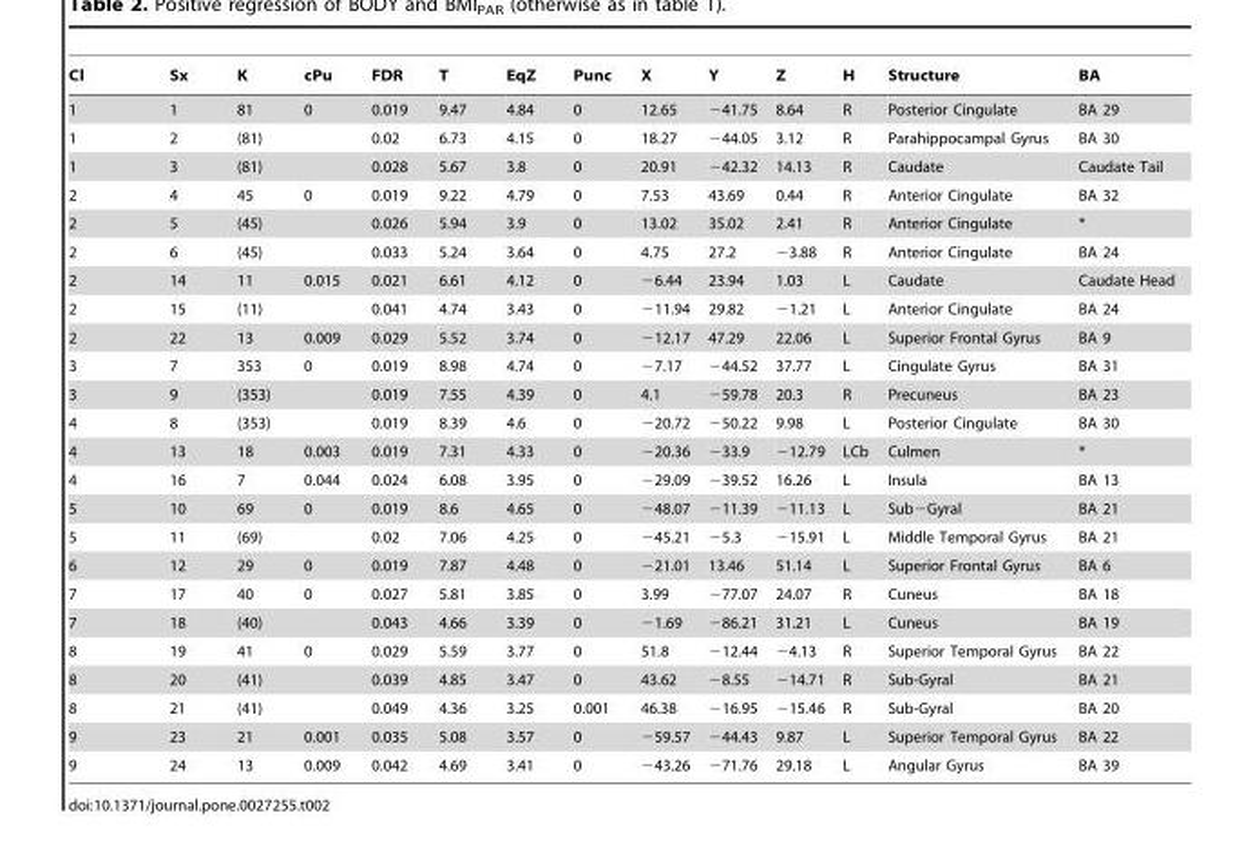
<table><thead><tr><td>Cl</td><td>Sx</td><td>K</td><td>cPu</td><td>FDR</td><td>T</td><td>EqZ</td><td>Punc</td><td>X</td><td>Y</td><td>Z</td><td>H</td><td>Structure</td><td>BA</td></tr></thead><tbody><tr><td>1</td><td>1</td><td>81</td><td>0</td><td>0.019</td><td>9.47</td><td>4.84</td><td>0</td><td>12.65</td><td>−41.75</td><td>8.64</td><td>R</td><td>Posterior Cingulate</td><td>BA 29</td></tr><tr><td>1</td><td>2</td><td>(81)</td><td></td><td>0.02</td><td>6.73</td><td>4.15</td><td>0</td><td>18.27</td><td>−44.05</td><td>3.12</td><td>R</td><td>Parahippocampal Gyrus</td><td>BA 30</td></tr><tr><td>1</td><td>3</td><td>(81)</td><td></td><td>0.028</td><td>5.67</td><td>3.8</td><td>0</td><td>20.91</td><td>−42.32</td><td>14.13</td><td>R</td><td>Caudate</td><td>Caudate Tail</td></tr><tr><td>2</td><td>4</td><td>45</td><td>0</td><td>0.019</td><td>9.22</td><td>4.79</td><td>0</td><td>7.53</td><td>43.69</td><td>0.44</td><td>R</td><td>Anterior Cingulate</td><td>BA 32</td></tr><tr><td>2</td><td>5</td><td>(45)</td><td></td><td>0.026</td><td>5.94</td><td>3.9</td><td>0</td><td>13.02</td><td>35.02</td><td>2.41</td><td>R</td><td>Anterior Cingulate</td><td>*</td></tr><tr><td>2</td><td>6</td><td>(45)</td><td></td><td>0.033</td><td>5.24</td><td>3.64</td><td>0</td><td>4.75</td><td>27.2</td><td>−3.88</td><td>R</td><td>Anterior Cingulate</td><td>BA 24</td></tr><tr><td>2</td><td>14</td><td>11</td><td>0.015</td><td>0.021</td><td>6.61</td><td>4.12</td><td>0</td><td>−6.44</td><td>23.94</td><td>1.03</td><td>L</td><td>Caudate</td><td>Caudate Head</td></tr><tr><td>2</td><td>15</td><td>(11)</td><td></td><td>0.041</td><td>4.74</td><td>3.43</td><td>0</td><td>−11.94</td><td>29.82</td><td>−1.21</td><td>L</td><td>Anterior Cingulate</td><td>BA 24</td></tr><tr><td>2</td><td>22</td><td>13</td><td>0.009</td><td>0.029</td><td>5.52</td><td>3.74</td><td>0</td><td>−12.17</td><td>47.29</td><td>22.06</td><td>L</td><td>Superior Frontal Gyrus</td><td>BA 9</td></tr><tr><td>3</td><td>7</td><td>353</td><td>0</td><td>0.019</td><td>8.98</td><td>4.74</td><td>0</td><td>−7.17</td><td>−44.52</td><td>37.77</td><td>L</td><td>Cingulate Gyrus</td><td>BA 31</td></tr><tr><td>3</td><td>9</td><td>(353)</td><td></td><td>0.019</td><td>7.55</td><td>4.39</td><td>0</td><td>4.1</td><td>−59.78</td><td>20.3</td><td>R</td><td>Precuneus</td><td>BA 23</td></tr><tr><td>4</td><td>8</td><td>(353)</td><td></td><td>0.019</td><td>8.39</td><td>4.6</td><td>0</td><td>−20.72</td><td>−50.22</td><td>9.98</td><td>L</td><td>Posterior Cingulate</td><td>BA 30</td></tr><tr><td>4</td><td>13</td><td>18</td><td>0.003</td><td>0.019</td><td>7.31</td><td>4.33</td><td>0</td><td>−20.36</td><td>−33.9</td><td>−12.79</td><td>LCb</td><td>Culmen</td><td>*</td></tr><tr><td>4</td><td>16</td><td>7</td><td>0.044</td><td>0.024</td><td>6.08</td><td>3.95</td><td>0</td><td>−29.09</td><td>−39.52</td><td>16.26</td><td>L</td><td>Insula</td><td>BA 13</td></tr><tr><td>5</td><td>10</td><td>69</td><td>0</td><td>0.019</td><td>8.6</td><td>4.65</td><td>0</td><td>−48.07</td><td>−11.39</td><td>−11.13</td><td>L</td><td>Sub−Gyral</td><td>BA 21</td></tr><tr><td>5</td><td>11</td><td>(69)</td><td></td><td>0.02</td><td>7.06</td><td>4.25</td><td>0</td><td>−45.21</td><td>−5.3</td><td>−15.91</td><td>L</td><td>Middle Temporal Gyrus</td><td>BA 21</td></tr><tr><td>6</td><td>12</td><td>29</td><td>0</td><td>0.019</td><td>7.87</td><td>4.48</td><td>0</td><td>−21.01</td><td>13.46</td><td>51.14</td><td>L</td><td>Superior Frontal Gyrus</td><td>BA 6</td></tr><tr><td>7</td><td>17</td><td>40</td><td>0</td><td>0.027</td><td>5.81</td><td>3.85</td><td>0</td><td>3.99</td><td>−77.07</td><td>24.07</td><td>R</td><td>Cuneus</td><td>BA 18</td></tr><tr><td>7</td><td>18</td><td>(40)</td><td></td><td>0.043</td><td>4.66</td><td>3.39</td><td>0</td><td>−1.69</td><td>−86.21</td><td>31.21</td><td>L</td><td>Cuneus</td><td>BA 19</td></tr><tr><td>8</td><td>19</td><td>41</td><td>0</td><td>0.029</td><td>5.59</td><td>3.77</td><td>0</td><td>51.8</td><td>−12.44</td><td>−4.13</td><td>R</td><td>Superior Temporal Gyrus</td><td>BA 22</td></tr><tr><td>8</td><td>20</td><td>(41)</td><td></td><td>0.039</td><td>4.85</td><td>3.47</td><td>0</td><td>43.62</td><td>−8.55</td><td>−14.71</td><td>R</td><td>Sub-Gyral</td><td>BA 21</td></tr><tr><td>8</td><td>21</td><td>(41)</td><td></td><td>0.049</td><td>4.36</td><td>3.25</td><td>0.001</td><td>46.38</td><td>−16.95</td><td>−15.46</td><td>R</td><td>Sub-Gyral</td><td>BA 20</td></tr><tr><td>9</td><td>23</td><td>21</td><td>0.001</td><td>0.035</td><td>5.08</td><td>3.57</td><td>0</td><td>−59.57</td><td>−44.43</td><td>9.87</td><td>L</td><td>Superior Temporal Gyrus</td><td>BA 22</td></tr><tr><td>9</td><td>24</td><td>13</td><td>0.009</td><td>0.042</td><td>4.69</td><td>3.41</td><td>0</td><td>−43.26</td><td>−71.76</td><td>29.18</td><td>L</td><td>Angular Gyrus</td><td>BA 39</td></tr></tbody></table>